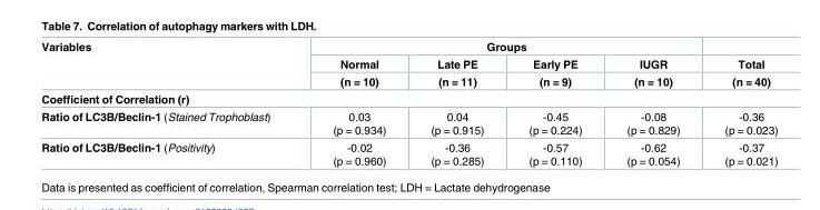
<table><thead><tr><td rowspan="3">Variables</td><td colspan="4">Groups</td><td rowspan="3">Total (n = 40)</td></tr><tr><td rowspan="2">Normal (n = 10)</td><td rowspan="2">Late PE (n = 11)</td><td rowspan="2">Early PE (n = 9)</td><td rowspan="2">IUGR (n = 10)</td></tr><tr></tr></thead><tbody><tr><td colspan="6">Coefficient of Correlation (r)</td></tr><tr><td>Ratio of LC3B/Beclin-1 (Stained Trophoblast)</td><td>0.03 (p = 0.934)</td><td>0.04 (p = 0.915)</td><td>-0.45 (p = 0.224)</td><td>-0.08 (p = 0.829)</td><td>-0.36 (p = 0.023)</td></tr><tr><td>Ratio of LC3B/Beclin-1 (Positivity)</td><td>-0.02 (p = 0.960)</td><td>-0.36 (p = 0.285)</td><td>-0.57 (p = 0.110)</td><td>-0.62 (p = 0.054)</td><td>-0.37 (p = 0.021)</td></tr></tbody></table>